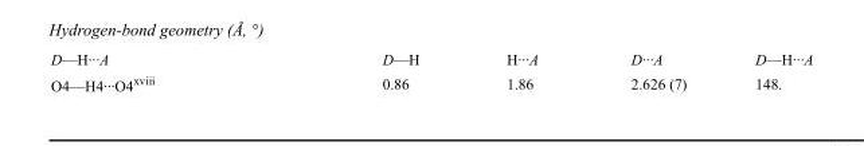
<table><tbody><tr><td>D—H···A</td><td>D—H</td><td>H···A</td><td>D···A</td><td>D—H···A</td></tr><tr><td>O4—H4···O4<sup>xviii</sup></td><td>0.86</td><td>1.86</td><td>2.626 (7)</td><td>148.</td></tr></tbody></table>